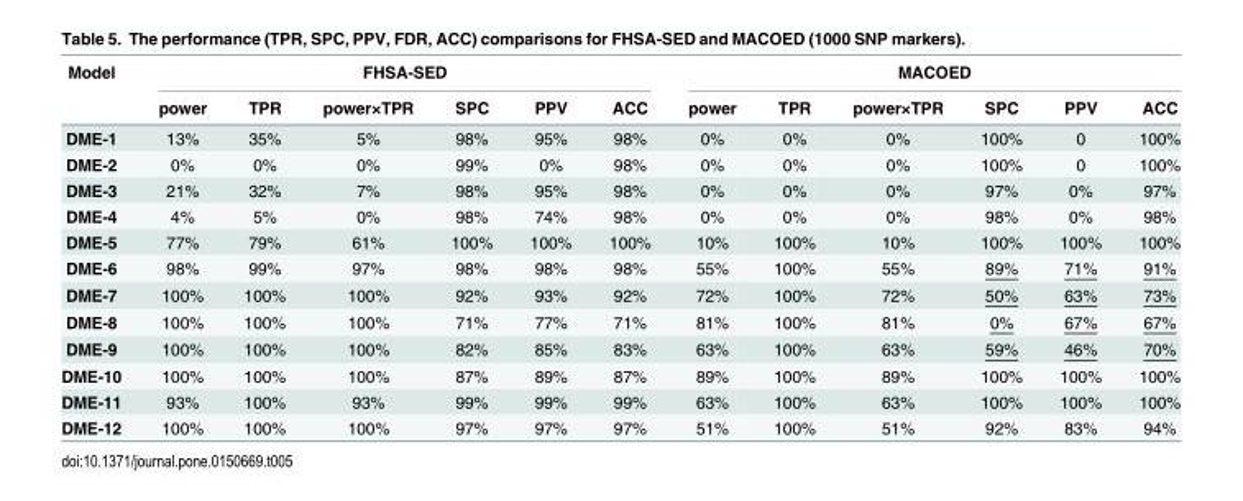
<table><thead><tr><td rowspan="2">Model</td><td colspan="6">FHSA-SED</td><td colspan="6">MACOED</td></tr><tr><td>power</td><td>TPR</td><td>power×TPR</td><td>SPC</td><td>PPV</td><td>ACC</td><td>power</td><td>TPR</td><td>power×TPR</td><td>SPC</td><td>PPV</td><td>ACC</td></tr></thead><tbody><tr><td>DME-1</td><td>13%</td><td>35%</td><td>5%</td><td>98%</td><td>95%</td><td>98%</td><td>0%</td><td>0%</td><td>0%</td><td>100%</td><td>0</td><td>100%</td></tr><tr><td>DME-2</td><td>0%</td><td>0%</td><td>0%</td><td>99%</td><td>0%</td><td>98%</td><td>0%</td><td>0%</td><td>0%</td><td>100%</td><td>0</td><td>100%</td></tr><tr><td>DME-3</td><td>21%</td><td>32%</td><td>7%</td><td>98%</td><td>95%</td><td>98%</td><td>0%</td><td>0%</td><td>0%</td><td>97%</td><td>0%</td><td>97%</td></tr><tr><td>DME-4</td><td>4%</td><td>5%</td><td>0%</td><td>98%</td><td>74%</td><td>98%</td><td>0%</td><td>0%</td><td>0%</td><td>98%</td><td>0%</td><td>98%</td></tr><tr><td>DME-5</td><td>77%</td><td>79%</td><td>61%</td><td>100%</td><td>100%</td><td>100%</td><td>10%</td><td>100%</td><td>10%</td><td>100%</td><td>100%</td><td>100%</td></tr><tr><td>DME-6</td><td>98%</td><td>99%</td><td>97%</td><td>98%</td><td>98%</td><td>98%</td><td>55%</td><td>100%</td><td>55%</td><td>89%</td><td>71%</td><td>91%</td></tr><tr><td>DME-7</td><td>100%</td><td>100%</td><td>100%</td><td>92%</td><td>93%</td><td>92%</td><td>72%</td><td>100%</td><td>72%</td><td>50%</td><td>63%</td><td>73%</td></tr><tr><td>DME-8</td><td>100%</td><td>100%</td><td>100%</td><td>71%</td><td>77%</td><td>71%</td><td>81%</td><td>100%</td><td>81%</td><td>0%</td><td>67%</td><td>67%</td></tr><tr><td>DME-9</td><td>100%</td><td>100%</td><td>100%</td><td>82%</td><td>85%</td><td>83%</td><td>63%</td><td>100%</td><td>63%</td><td>59%</td><td>46%</td><td>70%</td></tr><tr><td>DME-10</td><td>100%</td><td>100%</td><td>100%</td><td>87%</td><td>89%</td><td>87%</td><td>89%</td><td>100%</td><td>89%</td><td>100%</td><td>100%</td><td>100%</td></tr><tr><td>DME-11</td><td>93%</td><td>100%</td><td>93%</td><td>99%</td><td>99%</td><td>99%</td><td>63%</td><td>100%</td><td>63%</td><td>100%</td><td>100%</td><td>100%</td></tr><tr><td>DME-12</td><td>100%</td><td>100%</td><td>100%</td><td>97%</td><td>97%</td><td>97%</td><td>51%</td><td>100%</td><td>51%</td><td>92%</td><td>83%</td><td>94%</td></tr></tbody></table>